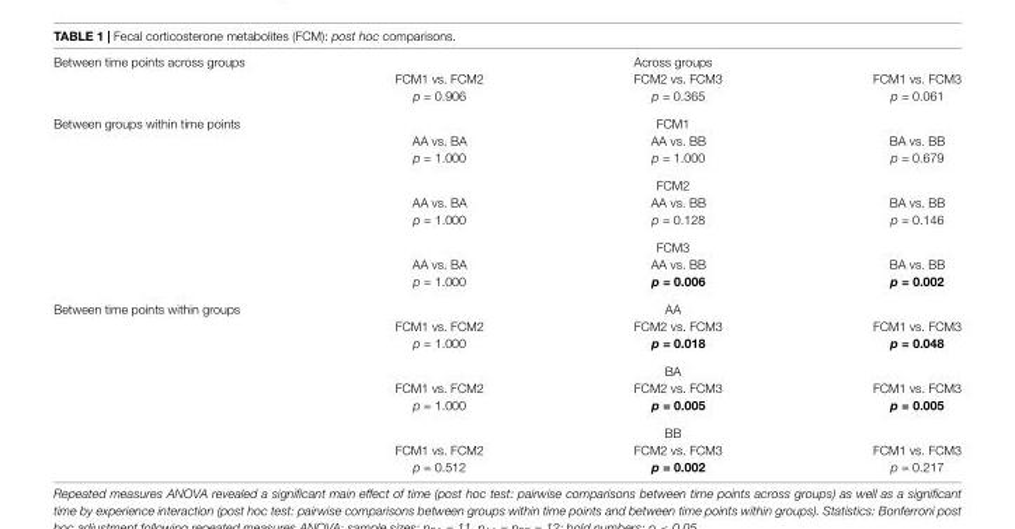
<table><tbody><tr><td rowspan="3">Between time points across groups</td><td colspan="3">Across groups</td></tr><tr><td>FCM1 vs. FCM2</td><td>FCM2 vs. FCM3</td><td>FCM1 vs. FCM3</td></tr><tr><td>p = 0.906</td><td>p = 0.365</td><td>p = 0.061</td></tr><tr><td rowspan="9">Between groups within time points</td><td colspan="3">FCM1</td></tr><tr><td>AA vs. BA</td><td>AA vs. BB</td><td>BA vs. BB</td></tr><tr><td>p = 1.000</td><td>p = 1.000</td><td>p = 0.679</td></tr><tr><td colspan="3">FCM2</td></tr><tr><td>AA vs. BA</td><td>AA vs. BB</td><td>BA vs. BB</td></tr><tr><td>p = 1.000</td><td>p = 0.128</td><td>p = 0.146</td></tr><tr><td colspan="3">FCM3</td></tr><tr><td>AA vs. BA</td><td>AA vs. BB</td><td>BA vs. BB</td></tr><tr><td>p = 1.000</td><td>p = 0.006</td><td>p = 0.002</td></tr><tr><td rowspan="9">Between time points within groups</td><td colspan="3">AA</td></tr><tr><td>FCM1 vs. FCM2</td><td>FCM2 vs. FCM3</td><td>FCM1 vs. FCM3</td></tr><tr><td>p = 1.000</td><td>p = 0.018</td><td>p = 0.048</td></tr><tr><td colspan="3">BA</td></tr><tr><td>FCM1 vs. FCM2</td><td>FCM2 vs. FCM3</td><td>FCM1 vs. FCM3</td></tr><tr><td>p = 1.000</td><td>p = 0.005</td><td>p = 0.005</td></tr><tr><td colspan="3">BB</td></tr><tr><td>FCM1 vs. FCM2</td><td>FCM2 vs. FCM3</td><td>FCM1 vs. FCM3</td></tr><tr><td>p = 0.512</td><td>p = 0.002</td><td>p = 0.217</td></tr></tbody></table>